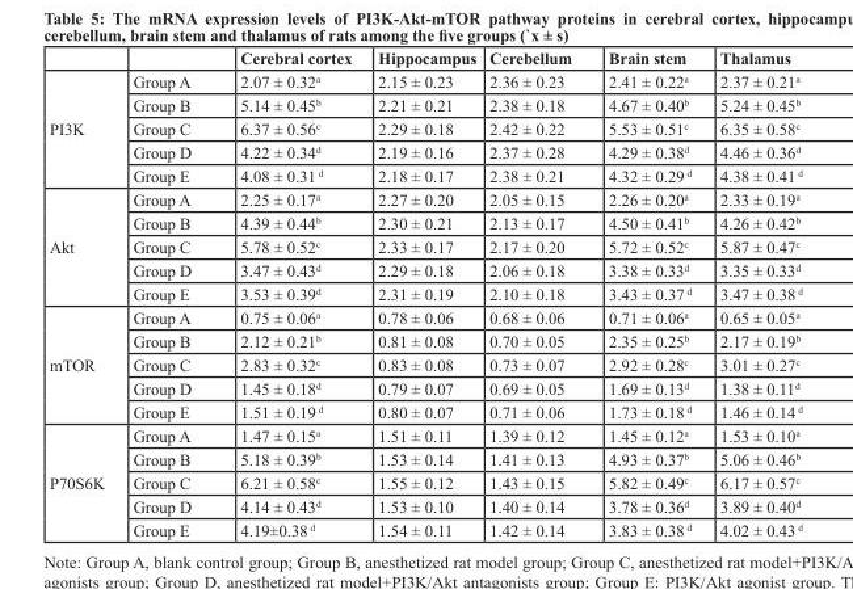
<table><thead><tr><td></td><td></td><td>Cerebral cortex</td><td>Hippocampus</td><td>Cerebellum</td><td>Brain stem</td><td>Thalamus</td></tr></thead><tbody><tr><td rowspan="5">PI3K</td><td>Group A</td><td>2.07 ± 0.32<sup>a</sup></td><td>2.15 ± 0.23</td><td>2.36 ± 0.23</td><td>2.41 ± 0.22<sup>a</sup></td><td>2.37 ± 0.21<sup>a</sup></td></tr><tr><td>Group B</td><td>5.14 ± 0.45<sup>b</sup></td><td>2.21 ± 0.21</td><td>2.38 ± 0.18</td><td>4.67 ± 0.40<sup>b</sup></td><td>5.24 ± 0.45<sup>b</sup></td></tr><tr><td>Group C</td><td>6.37 ± 0.56<sup>c</sup></td><td>2.29 ± 0.18</td><td>2.42 ± 0.22</td><td>5.53 ± 0.51<sup>c</sup></td><td>6.35 ± 0.58<sup>c</sup></td></tr><tr><td>Group D</td><td>4.22 ± 0.34<sup>d</sup></td><td>2.19 ± 0.16</td><td>2.37 ± 0.28</td><td>4.29 ± 0.38<sup>d</sup></td><td>4.46 ± 0.36<sup>d</sup></td></tr><tr><td>Group E</td><td>4.08 ± 0.31 <sup>d</sup></td><td>2.18 ± 0.17</td><td>2.38 ± 0.21</td><td>4.32 ± 0.29 <sup>d</sup></td><td>4.38 ± 0.41 <sup>d</sup></td></tr><tr><td rowspan="5">Akt</td><td>Group A</td><td>2.25 ± 0.17<sup>a</sup></td><td>2.27 ± 0.20</td><td>2.05 ± 0.15</td><td>2.26 ± 0.20<sup>a</sup></td><td>2.33 ± 0.19<sup>a</sup></td></tr><tr><td>Group B</td><td>4.39 ± 0.44<sup>b</sup></td><td>2.30 ± 0.21</td><td>2.13 ± 0.17</td><td>4.50 ± 0.41<sup>b</sup></td><td>4.26 ± 0.42<sup>b</sup></td></tr><tr><td>Group C</td><td>5.78 ± 0.52<sup>c</sup></td><td>2.33 ± 0.17</td><td>2.17 ± 0.20</td><td>5.72 ± 0.52<sup>c</sup></td><td>5.87 ± 0.47<sup>c</sup></td></tr><tr><td>Group D</td><td>3.47 ± 0.43<sup>d</sup></td><td>2.29 ± 0.18</td><td>2.06 ± 0.18</td><td>3.38 ± 0.33<sup>d</sup></td><td>3.35 ± 0.33<sup>d</sup></td></tr><tr><td>Group E</td><td>3.53 ± 0.39<sup>d</sup></td><td>2.31 ± 0.19</td><td>2.10 ± 0.18</td><td>3.43 ± 0.37 <sup>d</sup></td><td>3.47 ± 0.38 <sup>d</sup></td></tr><tr><td rowspan="5">mTOR</td><td>Group A</td><td>0.75 ± 0.06<sup>a</sup></td><td>0.78 ± 0.06</td><td>0.68 ± 0.06</td><td>0.71 ± 0.06<sup>a</sup></td><td>0.65 ± 0.05<sup>a</sup></td></tr><tr><td>Group B</td><td>2.12 ± 0.21<sup>b</sup></td><td>0.81 ± 0.08</td><td>0.70 ± 0.05</td><td>2.35 ± 0.25<sup>b</sup></td><td>2.17 ± 0.19<sup>b</sup></td></tr><tr><td>Group C</td><td>2.83 ± 0.32<sup>c</sup></td><td>0.83 ± 0.08</td><td>0.73 ± 0.07</td><td>2.92 ± 0.28<sup>c</sup></td><td>3.01 ± 0.27<sup>c</sup></td></tr><tr><td>Group D</td><td>1.45 ± 0.18<sup>d</sup></td><td>0.79 ± 0.07</td><td>0.69 ± 0.05</td><td>1.69 ± 0.13<sup>d</sup></td><td>1.38 ± 0.11<sup>d</sup></td></tr><tr><td>Group E</td><td>1.51 ± 0.19 <sup>d</sup></td><td>0.80 ± 0.07</td><td>0.71 ± 0.06</td><td>1.73 ± 0.18 <sup>d</sup></td><td>1.46 ± 0.14 <sup>d</sup></td></tr><tr><td rowspan="5">P70S6K</td><td>Group A</td><td>1.47 ± 0.15<sup>a</sup></td><td>1.51 ± 0.11</td><td>1.39 ± 0.12</td><td>1.45 ± 0.12<sup>a</sup></td><td>1.53 ± 0.10<sup>a</sup></td></tr><tr><td>Group B</td><td>5.18 ± 0.39<sup>b</sup></td><td>1.53 ± 0.14</td><td>1.41 ± 0.13</td><td>4.93 ± 0.37<sup>b</sup></td><td>5.06 ± 0.46<sup>b</sup></td></tr><tr><td>Group C</td><td>6.21 ± 0.58<sup>c</sup></td><td>1.55 ± 0.12</td><td>1.43 ± 0.15</td><td>5.82 ± 0.49<sup>c</sup></td><td>6.17 ± 0.57<sup>c</sup></td></tr><tr><td>Group D</td><td>4.14 ± 0.43<sup>d</sup></td><td>1.53 ± 0.10</td><td>1.40 ± 0.14</td><td>3.78 ± 0.36<sup>d</sup></td><td>3.89 ± 0.40<sup>d</sup></td></tr><tr><td>Group E</td><td>4.19±0.38 <sup>d</sup></td><td>1.54 ± 0.11</td><td>1.42 ± 0.14</td><td>3.83 ± 0.38 <sup>d</sup></td><td>4.02 ± 0.43 <sup>d</sup></td></tr></tbody></table>